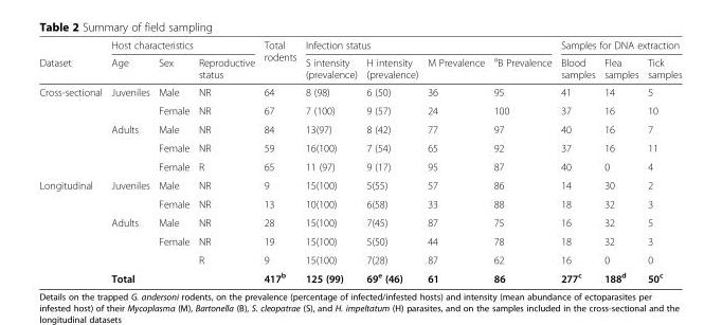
<table><thead><tr><td rowspan="2">Dataset</td><td colspan="3">Host characteristics</td><td rowspan="2">Total rodents</td><td colspan="4">Infection status</td><td colspan="3">Samples for DNA extraction</td></tr><tr><td>Age</td><td>Sex</td><td>Reproductive status</td><td>S intensity (prevalence)</td><td>H intensity (prevalence)</td><td>M Prevalence</td><td><sup>a</sup>B Prevalence</td><td>Blood samples</td><td>Flea samples</td><td>Tick samples</td></tr></thead><tbody><tr><td rowspan="5">Cross-sectional</td><td rowspan="2">Juveniles</td><td>Male</td><td>NR</td><td>64</td><td>8 (98)</td><td>6 (50)</td><td>36</td><td>95</td><td>41</td><td>14</td><td>5</td></tr><tr><td>Female</td><td>NR</td><td>67</td><td>7 (100)</td><td>9 (57)</td><td>24</td><td>100</td><td>37</td><td>16</td><td>10</td></tr><tr><td rowspan="3">Adults</td><td>Male</td><td>NR</td><td>84</td><td>13(97)</td><td>8 (42)</td><td>77</td><td>97</td><td>40</td><td>16</td><td>7</td></tr><tr><td>Female</td><td>NR</td><td>59</td><td>16(100)</td><td>7 (54)</td><td>65</td><td>92</td><td>37</td><td>16</td><td>11</td></tr><tr><td>Female</td><td>R</td><td>65</td><td>11 (97)</td><td>9 (17)</td><td>95</td><td>87</td><td>40</td><td>0</td><td>4</td></tr><tr><td rowspan="6">Longitudinal</td><td rowspan="2">Juveniles</td><td>Male</td><td>NR</td><td>9</td><td>15(100)</td><td>5(55)</td><td>57</td><td>86</td><td>14</td><td>30</td><td>2</td></tr><tr><td>Female</td><td>NR</td><td>13</td><td>10(100)</td><td>6(58)</td><td>33</td><td>88</td><td>18</td><td>32</td><td>3</td></tr><tr><td rowspan="3">Adults</td><td>Male</td><td>NR</td><td>28</td><td>15(100)</td><td>7(45)</td><td>87</td><td>75</td><td>16</td><td>32</td><td>5</td></tr><tr><td rowspan="2">Female</td><td>NR</td><td>19</td><td>15(100)</td><td>5(50)</td><td>44</td><td>78</td><td>18</td><td>32</td><td>3</td></tr><tr><td>R</td><td>9</td><td>15(100)</td><td>7(28)</td><td>87</td><td>62</td><td>16</td><td>0</td><td>0</td></tr><tr><td colspan="3">Total</td><td>417<sup>b</sup></td><td>125 (99)</td><td>69<sup>e</sup> (46)</td><td>61</td><td>86</td><td>277<sup>c</sup></td><td>188<sup>d</sup></td><td>50<sup>c</sup></td></tr></tbody></table>